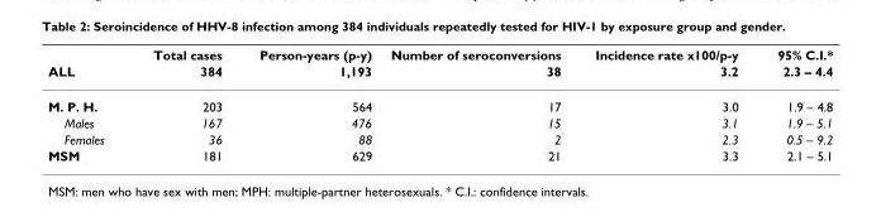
<table><thead><tr><td rowspan="2">ALL</td><td rowspan="2">Total cases 384</td><td rowspan="2">Person-years (p-y) 1,193</td><td rowspan="2">Number of seroconversions 38</td><td rowspan="2">Incidence rate x100/p-y 3.2</td><td rowspan="2">95% C.I.* 2.3 – 4.4</td></tr><tr></tr></thead><tbody><tr><td>M. P. H.</td><td>203</td><td>564</td><td>17</td><td>3.0</td><td>1.9 – 4.8</td></tr><tr><td>Males</td><td>167</td><td>476</td><td>15</td><td>3.1</td><td>1.9 – 5.1</td></tr><tr><td>Females</td><td>36</td><td>88</td><td>2</td><td>2.3</td><td>0.5 – 9.2</td></tr><tr><td>MSM</td><td>181</td><td>629</td><td>21</td><td>3.3</td><td>2.1 – 5.1</td></tr></tbody></table>